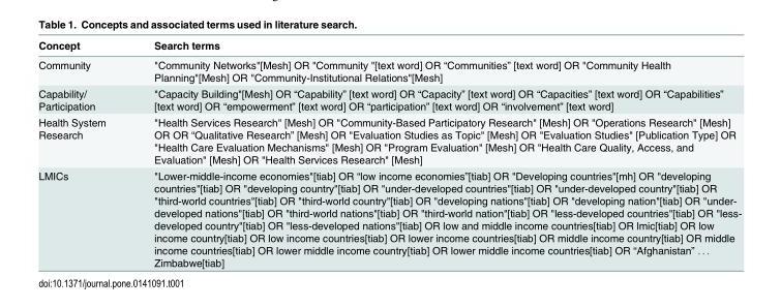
<table><thead><tr><td>Concept</td><td>Search terms</td></tr></thead><tbody><tr><td>Community</td><td>&quot;Community Networks&quot;[Mesh] OR &quot;Community &quot;[text word] OR “Communities” [text word] OR &quot;Community Health Planning&quot;[Mesh] OR &quot;Community-Institutional Relations&quot;[Mesh]</td></tr><tr><td>Capability/ Participation</td><td>&quot;Capacity Building&quot;[Mesh] OR “Capability” [text word] OR “Capacity” [text word] OR “Capacities” [text word] OR “Capabilities” [text word] OR “empowerment” [text word] OR “participation” [text word] OR “involvement” [text word]</td></tr><tr><td>Health System Research</td><td>&quot;Health Services Research&quot; [Mesh] OR &quot;Community-Based Participatory Research&quot; [Mesh] OR &quot;Operations Research&quot; [Mesh] OR OR “Qualitative Research” [Mesh] OR &quot;Evaluation Studies as Topic&quot; [Mesh] OR &quot;Evaluation Studies&quot; [Publication Type] OR &quot;Health Care Evaluation Mechanisms&quot; [Mesh] OR &quot;Program Evaluation&quot; [Mesh] OR &quot;Health Care Quality, Access, and Evaluation&quot; [Mesh] OR &quot;Health Services Research&quot; [Mesh]</td></tr><tr><td>LMICs</td><td>&quot;Lower-middle-income economies&quot;[tiab] OR “low income economies”[tiab] OR &quot;Developing countries&quot;[mh] OR &quot;developing countries&quot;[tiab] OR &quot;developing country&quot;[tiab] OR &quot;under-developed countries&quot;[tiab] OR &quot;under-developed country&quot;[tiab] OR &quot;third-world countries&quot;[tiab] OR &quot;third-world country&quot;[tiab] OR &quot;developing nations&quot;[tiab] OR &quot;developing nation&quot;[tiab] OR &quot;under- developed nations&quot;[tiab] OR &quot;third-world nations&quot;[tiab] OR &quot;third-world nation&quot;[tiab] OR &quot;less-developed countries&quot;[tiab] OR &quot;less- developed country&quot;[tiab] OR &quot;less-developed nations&quot;[tiab] OR low and middle income countries[tiab] OR lmic[tiab] OR low income country[tiab] OR low income countries[tiab] OR lower income countries[tiab] OR middle income country[tiab] OR middle income countries[tiab] OR lower middle income country[tiab] OR lower middle income countries[tiab] OR “Afghanistan” . . . Zimbabwe[tiab]</td></tr></tbody></table>